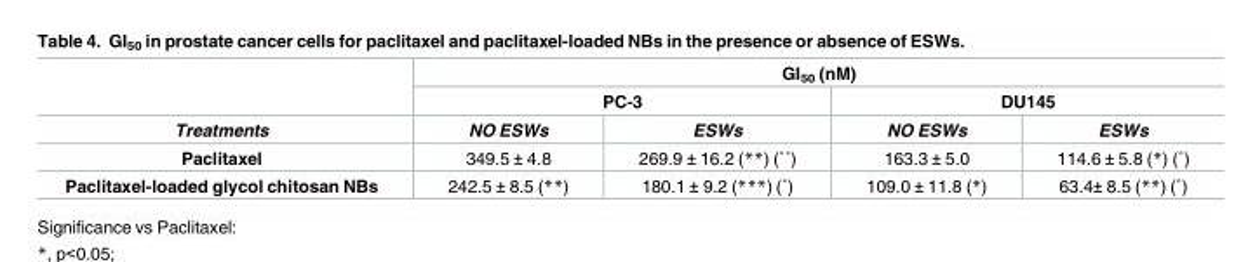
<table><thead><tr><td rowspan="3">Treatments</td><td colspan="4">GI<sub>50</sub> (nM)</td></tr><tr><td colspan="2">PC-3</td><td colspan="2">DU145</td></tr><tr><td>NO ESWs</td><td>ESWs</td><td>NO ESWs</td><td>ESWs</td></tr></thead><tbody><tr><td>Paclitaxel</td><td>349.5 ± 4.8</td><td>269.9 ± 16.2 (**) (˚˚)</td><td>163.3 ± 5.0</td><td>114.6 ± 5.8 (*) (˚)</td></tr><tr><td>Paclitaxel-loaded glycol chitosan NBs</td><td>242.5 ± 8.5 (**)</td><td>180.1 ± 9.2 (***) (˚)</td><td>109.0 ± 11.8 (*)</td><td>63.4± 8.5 (**) (˚)</td></tr></tbody></table>